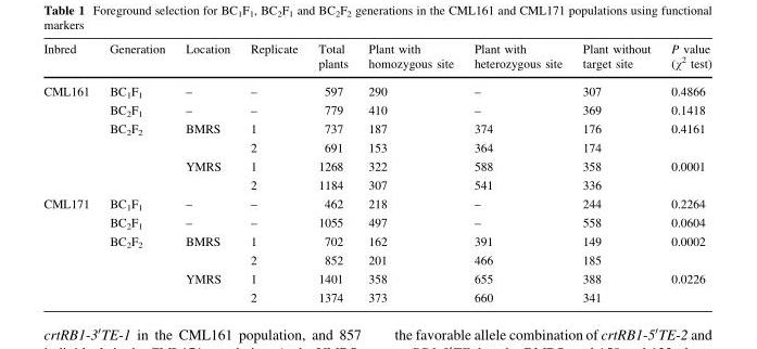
<table><thead><tr><td>Inbred</td><td>Generation</td><td>Location</td><td>Replicate</td><td>Total plants</td><td>Plant with homozygous site</td><td>Plant with heterozygous site</td><td>Plant without target site</td><td>P value (χ<sup>2</sup> test)</td></tr></thead><tbody><tr><td rowspan="6">CML161</td><td>BC<sub>1</sub>F<sub>1</sub></td><td>–</td><td>–</td><td>597</td><td>290</td><td>–</td><td>307</td><td>0.4866</td></tr><tr><td>BC<sub>2</sub>F<sub>1</sub></td><td>–</td><td>–</td><td>779</td><td>410</td><td>–</td><td>369</td><td>0.1418</td></tr><tr><td rowspan="4">BC<sub>2</sub>F<sub>2</sub></td><td rowspan="2">BMRS</td><td>1</td><td>737</td><td>187</td><td>374</td><td>176</td><td rowspan="2">0.4161</td></tr><tr><td>2</td><td>691</td><td>153</td><td>364</td><td>174</td></tr><tr><td rowspan="2">YMRS</td><td>1</td><td>1268</td><td>322</td><td>588</td><td>358</td><td rowspan="2">0.0001</td></tr><tr><td>2</td><td>1184</td><td>307</td><td>541</td><td>336</td></tr><tr><td rowspan="6">CML171</td><td>BC<sub>1</sub>F<sub>1</sub></td><td>–</td><td>–</td><td>462</td><td>218</td><td>–</td><td>244</td><td>0.2264</td></tr><tr><td>BC<sub>2</sub>F<sub>1</sub></td><td>–</td><td>–</td><td>1055</td><td>497</td><td>–</td><td>558</td><td>0.0604</td></tr><tr><td rowspan="4">BC<sub>2</sub>F<sub>2</sub></td><td rowspan="2">BMRS</td><td>1</td><td>702</td><td>162</td><td>391</td><td>149</td><td rowspan="2">0.0002</td></tr><tr><td>2</td><td>852</td><td>201</td><td>466</td><td>185</td></tr><tr><td rowspan="2">YMRS</td><td>1</td><td>1401</td><td>358</td><td>655</td><td>388</td><td rowspan="2">0.0226</td></tr><tr><td>2</td><td>1374</td><td>373</td><td>660</td><td>341</td></tr></tbody></table>